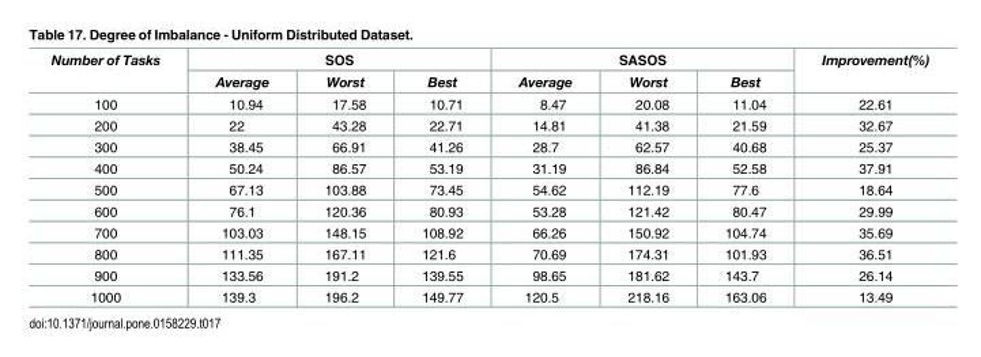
<table><thead><tr><td rowspan="2">Number of Tasks</td><td colspan="3">SOS</td><td colspan="3">SASOS</td><td rowspan="2">Improvement(%)</td></tr><tr><td>Average</td><td>Worst</td><td>Best</td><td>Average</td><td>Worst</td><td>Best</td></tr></thead><tbody><tr><td>100</td><td>10.94</td><td>17.58</td><td>10.71</td><td>8.47</td><td>20.08</td><td>11.04</td><td>22.61</td></tr><tr><td>200</td><td>22</td><td>43.28</td><td>22.71</td><td>14.81</td><td>41.38</td><td>21.59</td><td>32.67</td></tr><tr><td>300</td><td>38.45</td><td>66.91</td><td>41.26</td><td>28.7</td><td>62.57</td><td>40.68</td><td>25.37</td></tr><tr><td>400</td><td>50.24</td><td>86.57</td><td>53.19</td><td>31.19</td><td>86.84</td><td>52.58</td><td>37.91</td></tr><tr><td>500</td><td>67.13</td><td>103.88</td><td>73.45</td><td>54.62</td><td>112.19</td><td>77.6</td><td>18.64</td></tr><tr><td>600</td><td>76.1</td><td>120.36</td><td>80.93</td><td>53.28</td><td>121.42</td><td>80.47</td><td>29.99</td></tr><tr><td>700</td><td>103.03</td><td>148.15</td><td>108.92</td><td>66.26</td><td>150.92</td><td>104.74</td><td>35.69</td></tr><tr><td>800</td><td>111.35</td><td>167.11</td><td>121.6</td><td>70.69</td><td>174.31</td><td>101.93</td><td>36.51</td></tr><tr><td>900</td><td>133.56</td><td>191.2</td><td>139.55</td><td>98.65</td><td>181.62</td><td>143.7</td><td>26.14</td></tr><tr><td>1000</td><td>139.3</td><td>196.2</td><td>149.77</td><td>120.5</td><td>218.16</td><td>163.06</td><td>13.49</td></tr></tbody></table>